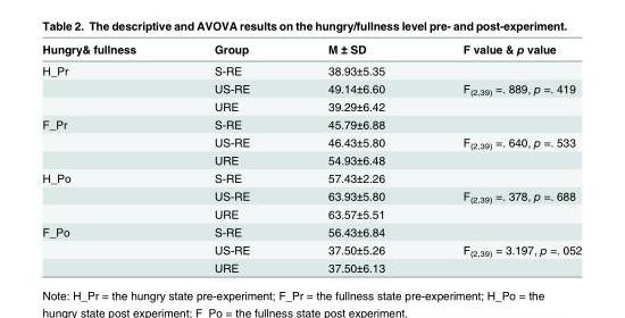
<table><thead><tr><td>Hungry&amp; fullness</td><td>Group</td><td>M ± SD</td><td>F value &amp; p value</td></tr></thead><tbody><tr><td rowspan="3">H_Pr</td><td>S-RE</td><td>38.93±5.35</td><td></td></tr><tr><td>US-RE</td><td>49.14±6.60</td><td>F<sub>(2,39)</sub> =. 889, p =. 419</td></tr><tr><td>URE</td><td>39.29±6.42</td><td></td></tr><tr><td rowspan="3">F_Pr</td><td>S-RE</td><td>45.79±6.88</td><td></td></tr><tr><td>US-RE</td><td>46.43±5.80</td><td>F<sub>(2,39)</sub> =. 640, p =. 533</td></tr><tr><td>URE</td><td>54.93±6.48</td><td></td></tr><tr><td rowspan="3">H_Po</td><td>S-RE</td><td>57.43±2.26</td><td></td></tr><tr><td>US-RE</td><td>63.93±5.80</td><td>F<sub>(2,39)</sub> =. 378, p =. 688</td></tr><tr><td>URE</td><td>63.57±5.51</td><td></td></tr><tr><td rowspan="3">F_Po</td><td>S-RE</td><td>56.43±6.84</td><td></td></tr><tr><td>US-RE</td><td>37.50±5.26</td><td>F<sub>(2,39)</sub> = 3.197, p =. 052</td></tr><tr><td>URE</td><td>37.50±6.13</td><td></td></tr></tbody></table>